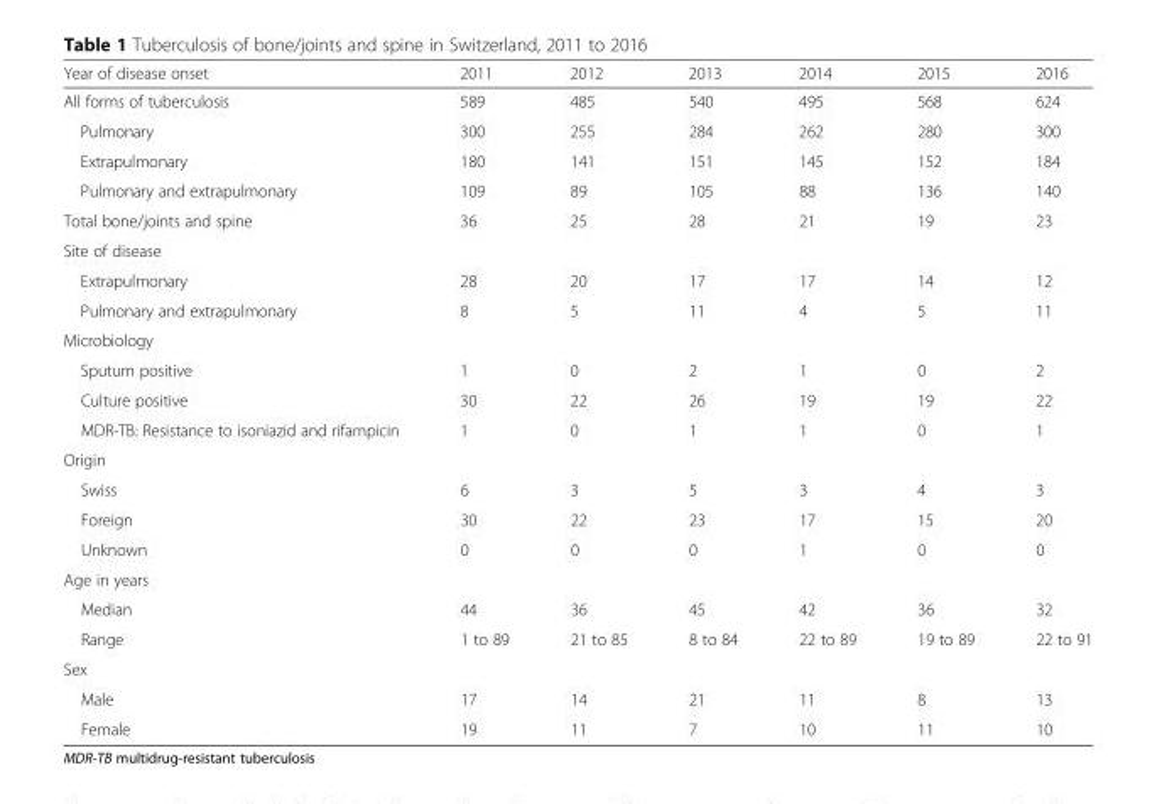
<table><thead><tr><td>Year of disease onset</td><td>2011</td><td>2012</td><td>2013</td><td>2014</td><td>2015</td><td>2016</td></tr></thead><tbody><tr><td>All forms of tuberculosis</td><td>589</td><td>485</td><td>540</td><td>495</td><td>568</td><td>624</td></tr><tr><td>Pulmonary</td><td>300</td><td>255</td><td>284</td><td>262</td><td>280</td><td>300</td></tr><tr><td>Extrapulmonary</td><td>180</td><td>141</td><td>151</td><td>145</td><td>152</td><td>184</td></tr><tr><td>Pulmonary and extrapulmonary</td><td>109</td><td>89</td><td>105</td><td>88</td><td>136</td><td>140</td></tr><tr><td>Total bone/joints and spine</td><td>36</td><td>25</td><td>28</td><td>21</td><td>19</td><td>23</td></tr><tr><td colspan="7">Site of disease</td></tr><tr><td>Extrapulmonary</td><td>28</td><td>20</td><td>17</td><td>17</td><td>14</td><td>12</td></tr><tr><td>Pulmonary and extrapulmonary</td><td>8</td><td>5</td><td>11</td><td>4</td><td>5</td><td>11</td></tr><tr><td colspan="7">Microbiology</td></tr><tr><td>Sputum positive</td><td>1</td><td>0</td><td>2</td><td>1</td><td>0</td><td>2</td></tr><tr><td>Culture positive</td><td>30</td><td>22</td><td>26</td><td>19</td><td>19</td><td>22</td></tr><tr><td>MDR-TB: Resistance to isoniazid and rifampicin</td><td>1</td><td>0</td><td>1</td><td>1</td><td>0</td><td>1</td></tr><tr><td colspan="7">Origin</td></tr><tr><td>Swiss</td><td>6</td><td>3</td><td>5</td><td>3</td><td>4</td><td>3</td></tr><tr><td>Foreign</td><td>30</td><td>22</td><td>23</td><td>17</td><td>15</td><td>20</td></tr><tr><td>Unknown</td><td>0</td><td>0</td><td>0</td><td>1</td><td>0</td><td>0</td></tr><tr><td colspan="7">Age in years</td></tr><tr><td>Median</td><td>44</td><td>36</td><td>45</td><td>42</td><td>36</td><td>32</td></tr><tr><td>Range</td><td>1 to 89</td><td>21 to 85</td><td>8 to 84</td><td>22 to 89</td><td>19 to 89</td><td>22 to 91</td></tr><tr><td colspan="7">Sex</td></tr><tr><td>Male</td><td>17</td><td>14</td><td>21</td><td>11</td><td>8</td><td>13</td></tr><tr><td>Female</td><td>19</td><td>11</td><td>7</td><td>10</td><td>11</td><td>10</td></tr></tbody></table>